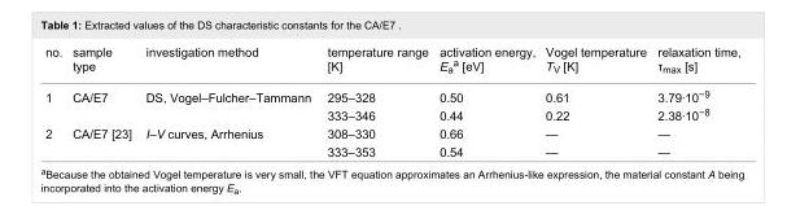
<table><tbody><tr><td>no.</td><td>sample type</td><td>investigation method</td><td>temperature range [K]</td><td>activation energy, E<sub>a</sub><sup>a</sup> [eV]</td><td>Vogel temperature T<sub>V</sub> [K]</td><td>relaxation time, τ<sub>max</sub> [s]</td></tr><tr><td rowspan="2">1</td><td rowspan="2">CA/E7</td><td rowspan="2">DS, Vogel–Fulcher–Tammann</td><td>295–328</td><td>0.50</td><td>0.61</td><td>3.79·10<sup>−9</sup></td></tr><tr><td>333–346</td><td>0.44</td><td>0.22</td><td>2.38·10<sup>−8</sup></td></tr><tr><td rowspan="2">2</td><td rowspan="2">CA/E7 [23]</td><td rowspan="2">I–V curves, Arrhenius</td><td>308–330</td><td>0.66</td><td>—</td><td>—</td></tr><tr><td>333–353</td><td>0.54</td><td>—</td><td>—</td></tr></tbody></table>